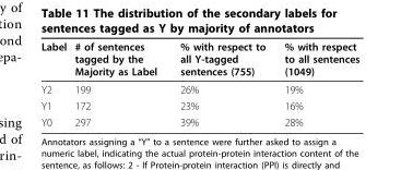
<table><thead><tr><td>Label</td><td># of sentences tagged by the Majority as Label</td><td>% with respect to all Y-tagged sentences (755)</td><td>% with respect to all sentences (1049)</td></tr></thead><tbody><tr><td>Y2</td><td>199</td><td>26%</td><td>19%</td></tr><tr><td>Y1</td><td>172</td><td>23%</td><td>16%</td></tr><tr><td>Y0</td><td>297</td><td>39%</td><td>28%</td></tr></tbody></table>